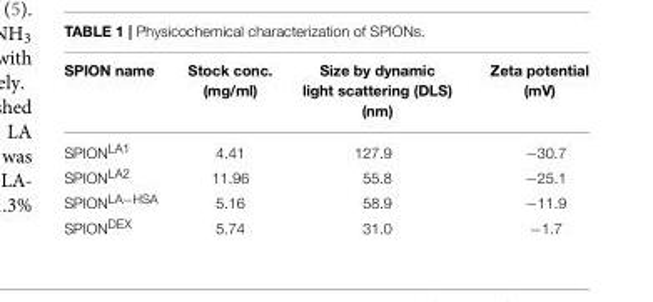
<table><thead><tr><td>SPION name</td><td>Stock conc. (mg/ml)</td><td>Size by dynamic light scattering (DLS) (nm)</td><td>Zeta potential (mV)</td></tr></thead><tbody><tr><td>SPION<sup>LA1</sup></td><td>4.41</td><td>127.9</td><td>−30.7</td></tr><tr><td>SPION<sup>LA2</sup></td><td>11.96</td><td>55.8</td><td>−25.1</td></tr><tr><td>SPION<sup>LA−HSA</sup></td><td>5.16</td><td>58.9</td><td>−11.9</td></tr><tr><td>SPION<sup>DEX</sup></td><td>5.74</td><td>31.0</td><td>−1.7</td></tr></tbody></table>